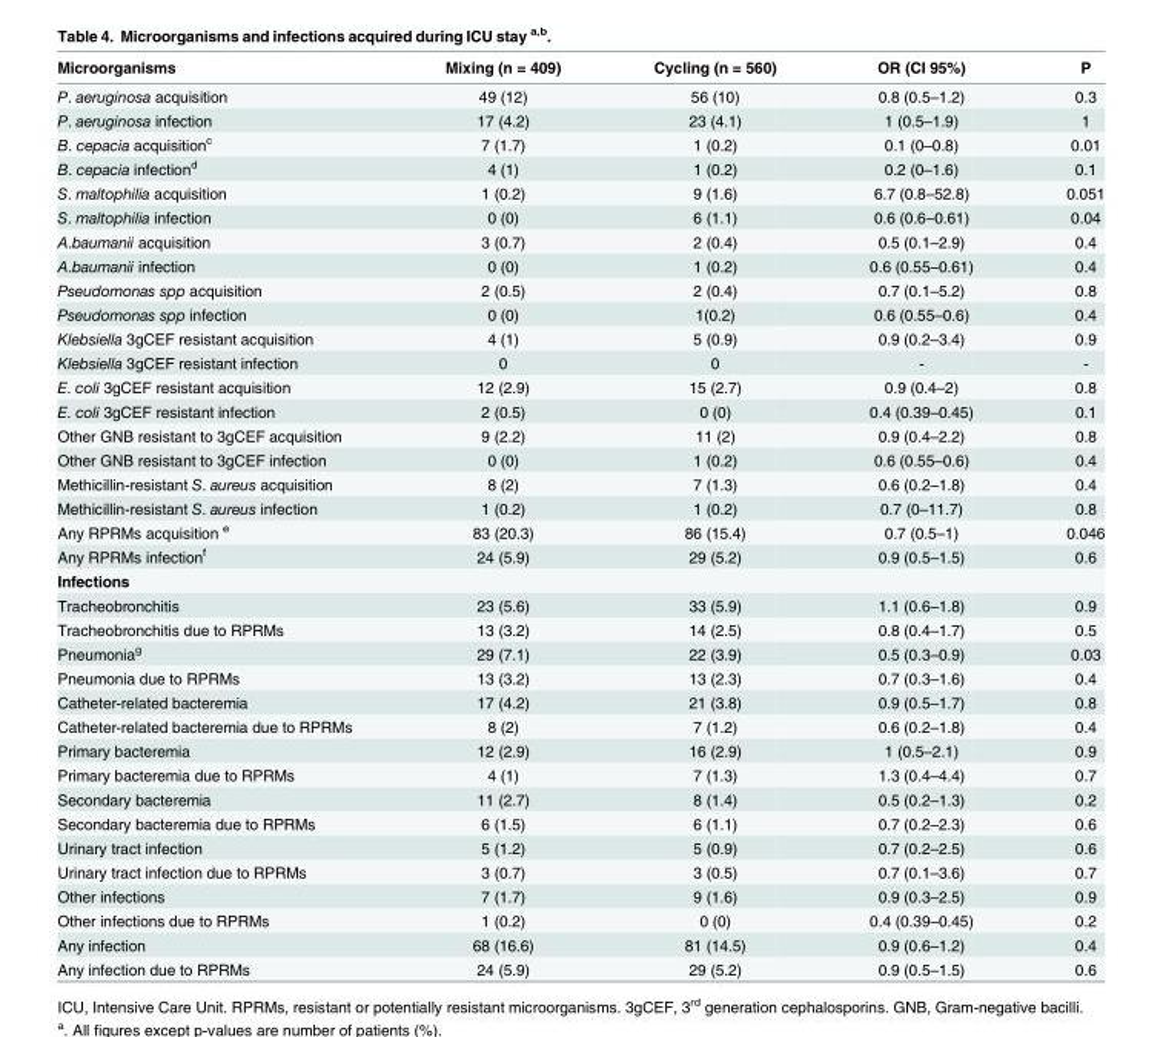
<table><thead><tr><td>Microorganisms</td><td>Mixing (n = 409)</td><td>Cycling (n = 560)</td><td>OR (CI 95%)</td><td>P</td></tr></thead><tbody><tr><td>P. aeruginosa acquisition</td><td>49 (12)</td><td>56 (10)</td><td>0.8 (0.5–1.2)</td><td>0.3</td></tr><tr><td>P. aeruginosa infection</td><td>17 (4.2)</td><td>23 (4.1)</td><td>1 (0.5–1.9)</td><td>1</td></tr><tr><td>B. cepacia acquisition<sup>c</sup></td><td>7 (1.7)</td><td>1 (0.2)</td><td>0.1 (0–0.8)</td><td>0.01</td></tr><tr><td>B. cepacia infection<sup>d</sup></td><td>4 (1)</td><td>1 (0.2)</td><td>0.2 (0–1.6)</td><td>0.1</td></tr><tr><td>S. maltophilia acquisition</td><td>1 (0.2)</td><td>9 (1.6)</td><td>6.7 (0.8–52.8)</td><td>0.051</td></tr><tr><td>S. maltophilia infection</td><td>0 (0)</td><td>6 (1.1)</td><td>0.6 (0.6–0.61)</td><td>0.04</td></tr><tr><td>A.baumanii acquisition</td><td>3 (0.7)</td><td>2 (0.4)</td><td>0.5 (0.1–2.9)</td><td>0.4</td></tr><tr><td>A.baumanii infection</td><td>0 (0)</td><td>1 (0.2)</td><td>0.6 (0.55–0.61)</td><td>0.4</td></tr><tr><td>Pseudomonas spp acquisition</td><td>2 (0.5)</td><td>2 (0.4)</td><td>0.7 (0.1–5.2)</td><td>0.8</td></tr><tr><td>Pseudomonas spp infection</td><td>0 (0)</td><td>1(0.2)</td><td>0.6 (0.55–0.6)</td><td>0.4</td></tr><tr><td>Klebsiella 3gCEF resistant acquisition</td><td>4 (1)</td><td>5 (0.9)</td><td>0.9 (0.2–3.4)</td><td>0.9</td></tr><tr><td>Klebsiella 3gCEF resistant infection</td><td>0</td><td>0</td><td>-</td><td>-</td></tr><tr><td>E. coli 3gCEF resistant acquisition</td><td>12 (2.9)</td><td>15 (2.7)</td><td>0.9 (0.4–2)</td><td>0.8</td></tr><tr><td>E. coli 3gCEF resistant infection</td><td>2 (0.5)</td><td>0 (0)</td><td>0.4 (0.39–0.45)</td><td>0.1</td></tr><tr><td>Other GNB resistant to 3gCEF acquisition</td><td>9 (2.2)</td><td>11 (2)</td><td>0.9 (0.4–2.2)</td><td>0.8</td></tr><tr><td>Other GNB resistant to 3gCEF infection</td><td>0 (0)</td><td>1 (0.2)</td><td>0.6 (0.55–0.6)</td><td>0.4</td></tr><tr><td>Methicillin-resistant S. aureus acquisition</td><td>8 (2)</td><td>7 (1.3)</td><td>0.6 (0.2–1.8)</td><td>0.4</td></tr><tr><td>Methicillin-resistant S. aureus infection</td><td>1 (0.2)</td><td>1 (0.2)</td><td>0.7 (0–11.7)</td><td>0.8</td></tr><tr><td>Any RPRMs acquisition <sup>e</sup></td><td>83 (20.3)</td><td>86 (15.4)</td><td>0.7 (0.5–1)</td><td>0.046</td></tr><tr><td>Any RPRMs infection<sup>f</sup></td><td>24 (5.9)</td><td>29 (5.2)</td><td>0.9 (0.5–1.5)</td><td>0.6</td></tr><tr><td colspan="5">Infections</td></tr><tr><td>Tracheobronchitis</td><td>23 (5.6)</td><td>33 (5.9)</td><td>1.1 (0.6–1.8)</td><td>0.9</td></tr><tr><td>Tracheobronchitis due to RPRMs</td><td>13 (3.2)</td><td>14 (2.5)</td><td>0.8 (0.4–1.7)</td><td>0.5</td></tr><tr><td>Pneumonia<sup>g</sup></td><td>29 (7.1)</td><td>22 (3.9)</td><td>0.5 (0.3–0.9)</td><td>0.03</td></tr><tr><td>Pneumonia due to RPRMs</td><td>13 (3.2)</td><td>13 (2.3)</td><td>0.7 (0.3–1.6)</td><td>0.4</td></tr><tr><td>Catheter-related bacteremia</td><td>17 (4.2)</td><td>21 (3.8)</td><td>0.9 (0.5–1.7)</td><td>0.8</td></tr><tr><td>Catheter-related bacteremia due to RPRMs</td><td>8 (2)</td><td>7 (1.2)</td><td>0.6 (0.2–1.8)</td><td>0.4</td></tr><tr><td>Primary bacteremia</td><td>12 (2.9)</td><td>16 (2.9)</td><td>1 (0.5–2.1)</td><td>0.9</td></tr><tr><td>Primary bacteremia due to RPRMs</td><td>4 (1)</td><td>7 (1.3)</td><td>1.3 (0.4–4.4)</td><td>0.7</td></tr><tr><td>Secondary bacteremia</td><td>11 (2.7)</td><td>8 (1.4)</td><td>0.5 (0.2–1.3)</td><td>0.2</td></tr><tr><td>Secondary bacteremia due to RPRMs</td><td>6 (1.5)</td><td>6 (1.1)</td><td>0.7 (0.2–2.3)</td><td>0.6</td></tr><tr><td>Urinary tract infection</td><td>5 (1.2)</td><td>5 (0.9)</td><td>0.7 (0.2–2.5)</td><td>0.6</td></tr><tr><td>Urinary tract infection due to RPRMs</td><td>3 (0.7)</td><td>3 (0.5)</td><td>0.7 (0.1–3.6)</td><td>0.7</td></tr><tr><td>Other infections</td><td>7 (1.7)</td><td>9 (1.6)</td><td>0.9 (0.3–2.5)</td><td>0.9</td></tr><tr><td>Other infections due to RPRMs</td><td>1 (0.2)</td><td>0 (0)</td><td>0.4 (0.39–0.45)</td><td>0.2</td></tr><tr><td>Any infection</td><td>68 (16.6)</td><td>81 (14.5)</td><td>0.9 (0.6–1.2)</td><td>0.4</td></tr><tr><td>Any infection due to RPRMs</td><td>24 (5.9)</td><td>29 (5.2)</td><td>0.9 (0.5–1.5)</td><td>0.6</td></tr></tbody></table>